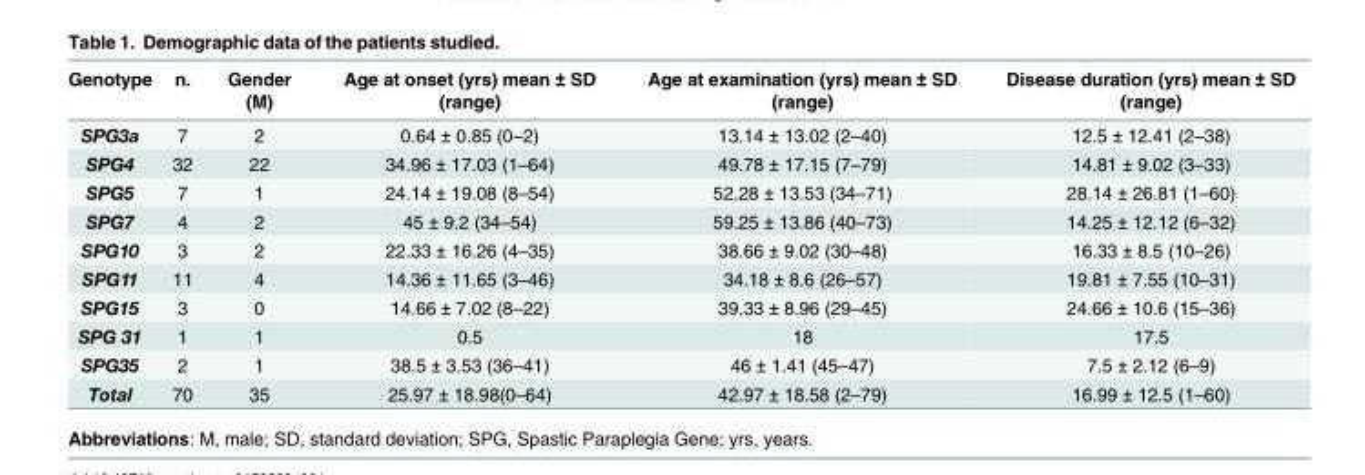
<table><thead><tr><td>Genotype</td><td>n.</td><td>Gender (M)</td><td>Age at onset (yrs) mean ± SD (range)</td><td>Age at examination (yrs) mean ± SD (range)</td><td>Disease duration (yrs) mean ± SD (range)</td></tr></thead><tbody><tr><td>SPG3a</td><td>7</td><td>2</td><td>0.64 ± 0.85 (0–2)</td><td>13.14 ± 13.02 (2–40)</td><td>12.5 ± 12.41 (2–38)</td></tr><tr><td>SPG4</td><td>32</td><td>22</td><td>34.96 ± 17.03 (1–64)</td><td>49.78 ± 17.15 (7–79)</td><td>14.81 ± 9.02 (3–33)</td></tr><tr><td>SPG5</td><td>7</td><td>1</td><td>24.14 ± 19.08 (8–54)</td><td>52.28 ± 13.53 (34–71)</td><td>28.14 ± 26.81 (1–60)</td></tr><tr><td>SPG7</td><td>4</td><td>2</td><td>45 ± 9.2 (34–54)</td><td>59.25 ± 13.86 (40–73)</td><td>14.25 ± 12.12 (6–32)</td></tr><tr><td>SPG10</td><td>3</td><td>2</td><td>22.33 ± 16.26 (4–35)</td><td>38.66 ± 9.02 (30–48)</td><td>16.33 ± 8.5 (10–26)</td></tr><tr><td>SPG11</td><td>11</td><td>4</td><td>14.36 ± 11.65 (3–46)</td><td>34.18 ± 8.6 (26–57)</td><td>19.81 ± 7.55 (10–31)</td></tr><tr><td>SPG15</td><td>3</td><td>0</td><td>14.66 ± 7.02 (8–22)</td><td>39.33 ± 8.96 (29–45)</td><td>24.66 ± 10.6 (15–36)</td></tr><tr><td>SPG 31</td><td>1</td><td>1</td><td>0.5</td><td>18</td><td>17.5</td></tr><tr><td>SPG35</td><td>2</td><td>1</td><td>38.5 ± 3.53 (36–41)</td><td>46 ± 1.41 (45–47)</td><td>7.5 ± 2.12 (6–9)</td></tr><tr><td>Total</td><td>70</td><td>35</td><td>25.97 ± 18.98(0–64)</td><td>42.97 ± 18.58 (2–79)</td><td>16.99 ± 12.5 (1–60)</td></tr></tbody></table>